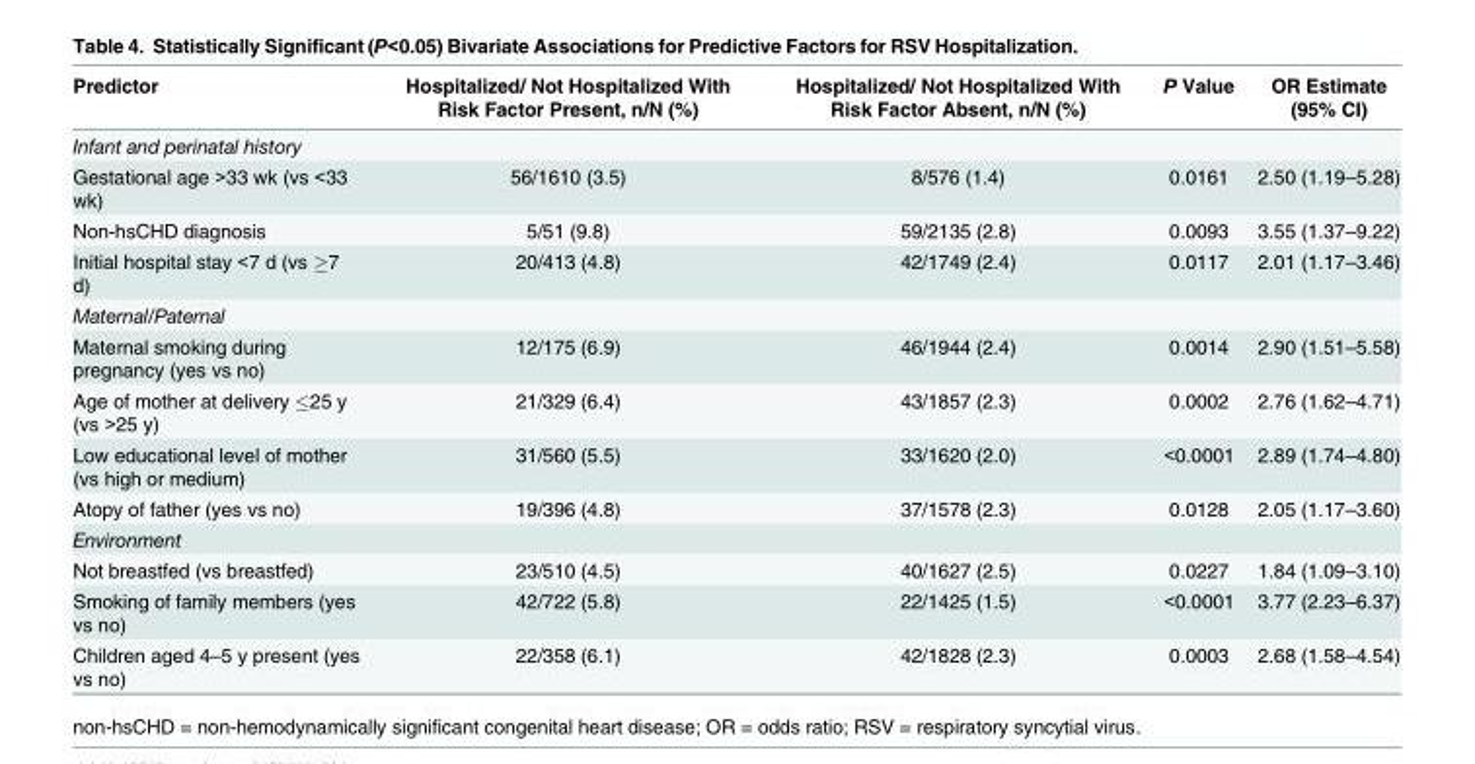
<table><thead><tr><td>Predictor</td><td>Hospitalized/ Not Hospitalized With Risk Factor Present, n/N (%)</td><td>Hospitalized/ Not Hospitalized With Risk Factor Absent, n/N (%)</td><td>P Value</td><td>OR Estimate (95% CI)</td></tr></thead><tbody><tr><td colspan="5">Infant and perinatal history</td></tr><tr><td>Gestational age &gt;33 wk (vs &lt;33 wk)</td><td>56/1610 (3.5)</td><td>8/576 (1.4)</td><td>0.0161</td><td>2.50 (1.19–5.28)</td></tr><tr><td>Non-hsCHD diagnosis</td><td>5/51 (9.8)</td><td>59/2135 (2.8)</td><td>0.0093</td><td>3.55 (1.37–9.22)</td></tr><tr><td>Initial hospital stay &lt;7 d (vs ≥7 d)</td><td>20/413 (4.8)</td><td>42/1749 (2.4)</td><td>0.0117</td><td>2.01 (1.17–3.46)</td></tr><tr><td colspan="5">Maternal/Paternal</td></tr><tr><td>Maternal smoking during pregnancy (yes vs no)</td><td>12/175 (6.9)</td><td>46/1944 (2.4)</td><td>0.0014</td><td>2.90 (1.51–5.58)</td></tr><tr><td>Age of mother at delivery ≤25 y (vs &gt;25 y)</td><td>21/329 (6.4)</td><td>43/1857 (2.3)</td><td>0.0002</td><td>2.76 (1.62–4.71)</td></tr><tr><td>Low educational level of mother (vs high or medium)</td><td>31/560 (5.5)</td><td>33/1620 (2.0)</td><td>&lt;0.0001</td><td>2.89 (1.74–4.80)</td></tr><tr><td>Atopy of father (yes vs no)</td><td>19/396 (4.8)</td><td>37/1578 (2.3)</td><td>0.0128</td><td>2.05 (1.17–3.60)</td></tr><tr><td colspan="5">Environment</td></tr><tr><td>Not breastfed (vs breastfed)</td><td>23/510 (4.5)</td><td>40/1627 (2.5)</td><td>0.0227</td><td>1.84 (1.09–3.10)</td></tr><tr><td>Smoking of family members (yes vs no)</td><td>42/722 (5.8)</td><td>22/1425 (1.5)</td><td>&lt;0.0001</td><td>3.77 (2.23–6.37)</td></tr><tr><td>Children aged 4–5 y present (yes vs no)</td><td>22/358 (6.1)</td><td>42/1828 (2.3)</td><td>0.0003</td><td>2.68 (1.58–4.54)</td></tr></tbody></table>